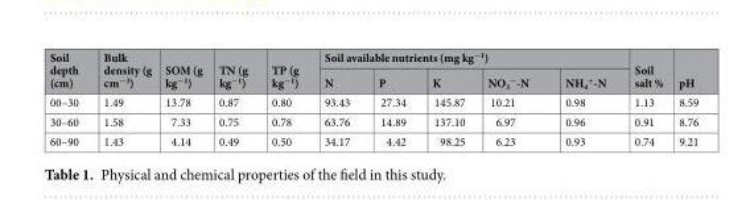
<table><thead><tr><td rowspan="2">Soil depth (cm)</td><td rowspan="2">Bulk density (g cm<sup>−3</sup>)</td><td rowspan="2">SOM (g kg<sup>−1</sup>)</td><td rowspan="2">TN (g kg<sup>−1</sup>)</td><td rowspan="2">TP (g kg<sup>−1</sup>)</td><td colspan="5">Soil available nutrients (mg kg<sup>−1</sup>)</td><td rowspan="2">Soil salt %</td><td rowspan="2">pH</td></tr><tr><td>N</td><td>P</td><td>K</td><td>NO<sub>3</sub> <sup>−</sup>-N</td><td>NH<sub>4</sub> <sup>+</sup>-N</td></tr></thead><tbody><tr><td>00–30</td><td>1.49</td><td>13.78</td><td>0.87</td><td>0.80</td><td>93.43</td><td>27.34</td><td>145.87</td><td>10.21</td><td>0.98</td><td>1.13</td><td>8.59</td></tr><tr><td>30–60</td><td>1.58</td><td>7.33</td><td>0.75</td><td>0.78</td><td>63.76</td><td>14.89</td><td>137.10</td><td>6.97</td><td>0.96</td><td>0.91</td><td>8.76</td></tr><tr><td>60–90</td><td>1.43</td><td>4.14</td><td>0.49</td><td>0.50</td><td>34.17</td><td>4.42</td><td>98.25</td><td>6.23</td><td>0.93</td><td>0.74</td><td>9.21</td></tr></tbody></table>